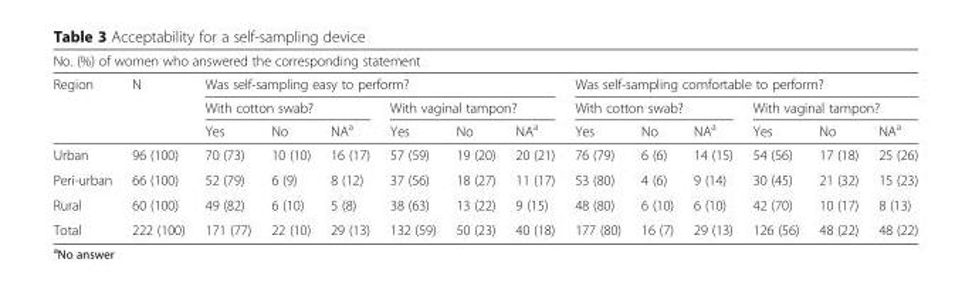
<table><thead><tr><td colspan="14">No. (%) of women who answered the corresponding statement</td></tr><tr><td rowspan="3">Region</td><td rowspan="3">N</td><td colspan="6">Was self-sampling easy to perform?</td><td colspan="6">Was self-sampling comfortable to perform?</td></tr><tr><td colspan="3">With cotton swab?</td><td colspan="3">With vaginal tampon?</td><td colspan="3">With cotton swab?</td><td colspan="3">With vaginal tampon?</td></tr><tr><td>Yes</td><td>No</td><td>NA<sup>a</sup></td><td>Yes</td><td>No</td><td>NA<sup>a</sup></td><td>Yes</td><td>No</td><td>NA<sup>a</sup></td><td>Yes</td><td>No</td><td>NA<sup>a</sup></td></tr></thead><tbody><tr><td>Urban</td><td>96 (100)</td><td>70 (73)</td><td>10 (10)</td><td>16 (17)</td><td>57 (59)</td><td>19 (20)</td><td>20 (21)</td><td>76 (79)</td><td>6 (6)</td><td>14 (15)</td><td>54 (56)</td><td>17 (18)</td><td>25 (26)</td></tr><tr><td>Peri-urban</td><td>66 (100)</td><td>52 (79)</td><td>6 (9)</td><td>8 (12)</td><td>37 (56)</td><td>18 (27)</td><td>11 (17)</td><td>53 (80)</td><td>4 (6)</td><td>9 (14)</td><td>30 (45)</td><td>21 (32)</td><td>15 (23)</td></tr><tr><td>Rural</td><td>60 (100)</td><td>49 (82)</td><td>6 (10)</td><td>5 (8)</td><td>38 (63)</td><td>13 (22)</td><td>9 (15)</td><td>48 (80)</td><td>6 (10)</td><td>6 (10)</td><td>42 (70)</td><td>10 (17)</td><td>8 (13)</td></tr><tr><td>Total</td><td>222 (100)</td><td>171 (77)</td><td>22 (10)</td><td>29 (13)</td><td>132 (59)</td><td>50 (23)</td><td>40 (18)</td><td>177 (80)</td><td>16 (7)</td><td>29 (13)</td><td>126 (56)</td><td>48 (22)</td><td>48 (22)</td></tr></tbody></table>